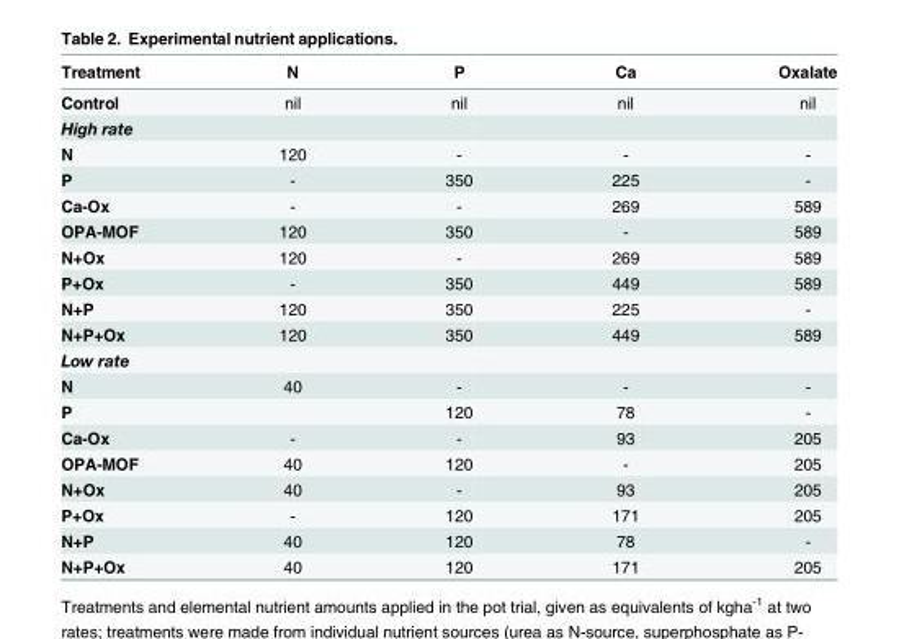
<table><thead><tr><td>Treatment</td><td>N</td><td>P</td><td>Ca</td><td>Oxalate</td></tr></thead><tbody><tr><td>Control</td><td>nil</td><td>nil</td><td>nil</td><td>nil</td></tr><tr><td colspan="5">High rate</td></tr><tr><td>N</td><td>120</td><td>-</td><td>-</td><td>-</td></tr><tr><td>P</td><td>-</td><td>350</td><td>225</td><td>-</td></tr><tr><td>Ca-Ox</td><td>-</td><td>-</td><td>269</td><td>589</td></tr><tr><td>OPA-MOF</td><td>120</td><td>350</td><td>-</td><td>589</td></tr><tr><td>N+Ox</td><td>120</td><td>-</td><td>269</td><td>589</td></tr><tr><td>P+Ox</td><td>-</td><td>350</td><td>449</td><td>589</td></tr><tr><td>N+P</td><td>120</td><td>350</td><td>225</td><td>-</td></tr><tr><td>N+P+Ox</td><td>120</td><td>350</td><td>449</td><td>589</td></tr><tr><td colspan="5">Low rate</td></tr><tr><td>N</td><td>40</td><td>-</td><td>-</td><td>-</td></tr><tr><td>P</td><td></td><td>120</td><td>78</td><td>-</td></tr><tr><td>Ca-Ox</td><td>-</td><td>-</td><td>93</td><td>205</td></tr><tr><td>OPA-MOF</td><td>40</td><td>120</td><td>-</td><td>205</td></tr><tr><td>N+Ox</td><td>40</td><td>-</td><td>93</td><td>205</td></tr><tr><td>P+Ox</td><td>-</td><td>120</td><td>171</td><td>205</td></tr><tr><td>N+P</td><td>40</td><td>120</td><td>78</td><td>-</td></tr><tr><td>N+P+Ox</td><td>40</td><td>120</td><td>171</td><td>205</td></tr></tbody></table>